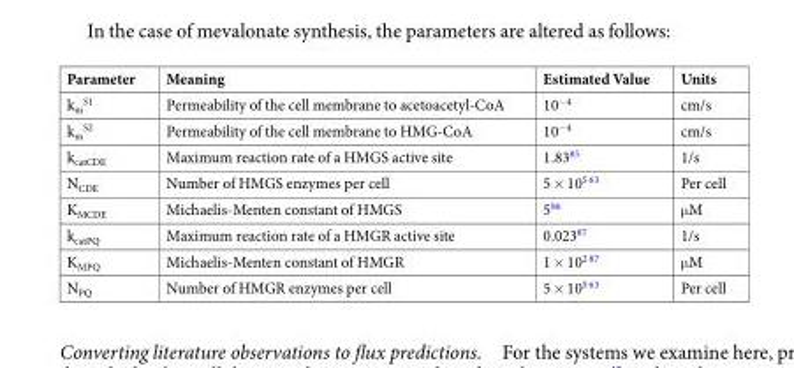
<table><tbody><tr><td>Parameter</td><td>Meaning</td><td>Estimated Value</td><td>Units</td></tr><tr><td>k<sub>m</sub> <sup>S1</sup></td><td>Permeability of the cell membrane to acetoacetyl-CoA</td><td>10<sup>−4</sup></td><td>cm/s</td></tr><tr><td>k<sub>m</sub> <sup>S2</sup></td><td>Permeability of the cell membrane to HMG-CoA</td><td>10<sup>−4</sup></td><td>cm/s</td></tr><tr><td>k<sub>catCDE</sub></td><td>Maximum reaction rate of a HMGS active site</td><td>1.83<sup>85</sup></td><td>1/s</td></tr><tr><td>N<sub>CDE</sub></td><td>Number of HMGS enzymes per cell</td><td>5 × 10<sup>5 63</sup></td><td>Per cell</td></tr><tr><td>K<sub>MCDE</sub></td><td>Michaelis-Menten constant of HMGS</td><td>5<sup>86</sup></td><td>μM</td></tr><tr><td>k<sub>catPQ</sub></td><td>Maximum reaction rate of a HMGR active site</td><td>0.023<sup>87</sup></td><td>1/s</td></tr><tr><td>K<sub>MPQ</sub></td><td>Michaelis-Menten constant of HMGR</td><td>1 × 10<sup>2 87</sup></td><td>μM</td></tr><tr><td>N<sub>PQ</sub></td><td>Number of HMGR enzymes per cell</td><td>5 × 10<sup>5 63</sup></td><td>Per cell</td></tr></tbody></table>